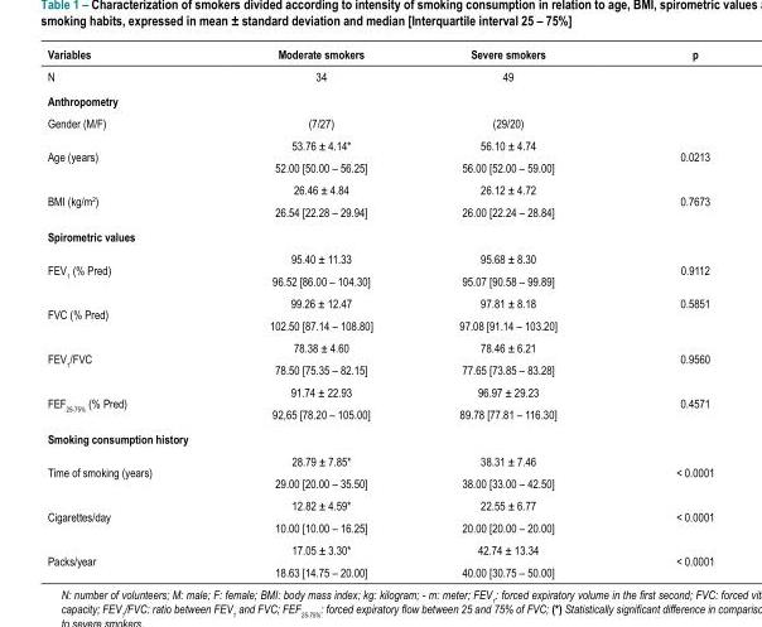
<table><thead><tr><td>Variables</td><td>Moderate smokers</td><td>Severe smokers</td><td>p</td></tr></thead><tbody><tr><td>N</td><td>34</td><td>49</td><td></td></tr><tr><td colspan="4">Anthropometry</td></tr><tr><td>Gender (M/F)</td><td>(7/27)</td><td>(29/20)</td><td></td></tr><tr><td rowspan="2">Age (years)</td><td>53.76 ± 4.14*</td><td>56.10 ± 4.74</td><td rowspan="2">0.0213</td></tr><tr><td>52.00 [50.00 – 56.25]</td><td>56.00 [52.00 – 59.00]</td></tr><tr><td rowspan="2">BMI (kg/m<sup>2</sup>)</td><td>26.46 ± 4.84</td><td>26.12 ± 4.72</td><td rowspan="2">0.7673</td></tr><tr><td>26.54 [22.28 – 29.94]</td><td>26.00 [22.24 – 28.84]</td></tr><tr><td colspan="4">Spirometric values</td></tr><tr><td rowspan="2">FEV<sub>1</sub> (% Pred)</td><td>95.40 ± 11.33</td><td>95.68 ± 8.30</td><td rowspan="2">0.9112</td></tr><tr><td>96.52 [86.00 – 104.30]</td><td>95.07 [90.58 – 99.89]</td></tr><tr><td rowspan="2">FVC (% Pred)</td><td>99.26 ± 12.47</td><td>97.81 ± 8.18</td><td>0.5851</td></tr><tr><td>102.50 [87.14 – 108.80]</td><td>97.08 [91.14 – 103.20]</td><td></td></tr><tr><td rowspan="2">FEV<sub>1</sub>/FVC</td><td>78.38 ± 4.60</td><td>78.46 ± 6.21</td><td rowspan="2">0.9560</td></tr><tr><td>78.50 [75.35 – 82.15]</td><td>77.65 [73.85 – 83.28]</td></tr><tr><td rowspan="2">FEF<sub>25-75%</sub> (% Pred)</td><td>91.74 ± 22.93</td><td>96.97 ± 29.23</td><td rowspan="2">0.4571</td></tr><tr><td>92,65 [78.20 – 105.00]</td><td>89.78 [77.81 – 116.30]</td></tr><tr><td colspan="4">Smoking consumption history</td></tr><tr><td rowspan="2">Time of smoking (years)</td><td>28.79 ± 7.85*</td><td>38.31 ± 7.46</td><td rowspan="2">&lt; 0.0001</td></tr><tr><td>29.00 [20.00 – 35.50]</td><td>38.00 [33.00 – 42.50]</td></tr><tr><td rowspan="2">Cigarettes/day</td><td>12.82 ± 4.59*</td><td>22.55 ± 6.77</td><td rowspan="2">&lt; 0.0001</td></tr><tr><td>10.00 [10.00 – 16.25]</td><td>20.00 [20.00 – 20.00]</td></tr><tr><td rowspan="2">Packs/year</td><td>17.05 ± 3.30*</td><td>42.74 ± 13.34</td><td rowspan="2">&lt; 0.0001</td></tr><tr><td>18.63 [14.75 – 20.00]</td><td>40.00 [30.75 – 50.00]</td></tr></tbody></table>